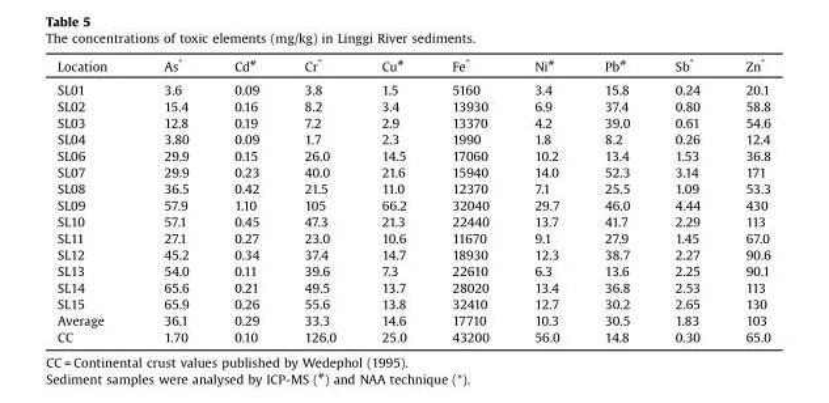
<table><thead><tr><td>Location</td><td>As*</td><td>Cd<sup>#</sup></td><td>Cr*</td><td>Cu<sup>#</sup></td><td>Fe*</td><td>Ni<sup>#</sup></td><td>Pb<sup>#</sup></td><td>Sb*</td><td>Zn*</td></tr></thead><tbody><tr><td>SL01</td><td>3.6</td><td>0.09</td><td>3.8</td><td>1.5</td><td>5160</td><td>3.4</td><td>15.8</td><td>0.24</td><td>20.1</td></tr><tr><td>SL02</td><td>15.4</td><td>0.16</td><td>8.2</td><td>3.4</td><td>13930</td><td>6.9</td><td>37.4</td><td>0.80</td><td>58.8</td></tr><tr><td>SL03</td><td>12.8</td><td>0.19</td><td>7.2</td><td>2.9</td><td>13370</td><td>4.2</td><td>39.0</td><td>0.61</td><td>54.6</td></tr><tr><td>SL04</td><td>3.80</td><td>0.09</td><td>1.7</td><td>2.3</td><td>1990</td><td>1.8</td><td>8.2</td><td>0.26</td><td>12.4</td></tr><tr><td>SL06</td><td>29.9</td><td>0.15</td><td>26.0</td><td>14.5</td><td>17060</td><td>10.2</td><td>13.4</td><td>1.53</td><td>36.8</td></tr><tr><td>SL07</td><td>29.9</td><td>0.23</td><td>40.0</td><td>21.6</td><td>15940</td><td>14.0</td><td>52.3</td><td>3.14</td><td>171</td></tr><tr><td>SL08</td><td>36.5</td><td>0.42</td><td>21.5</td><td>11.0</td><td>12370</td><td>7.1</td><td>25.5</td><td>1.09</td><td>53.3</td></tr><tr><td>SL09</td><td>57.9</td><td>1.10</td><td>105</td><td>66.2</td><td>32040</td><td>29.7</td><td>46.0</td><td>4.44</td><td>430</td></tr><tr><td>SL10</td><td>57.1</td><td>0.45</td><td>47.3</td><td>21.3</td><td>22440</td><td>13.7</td><td>41.7</td><td>2.29</td><td>113</td></tr><tr><td>SL11</td><td>27.1</td><td>0.27</td><td>23.0</td><td>10.6</td><td>11670</td><td>9.1</td><td>27.9</td><td>1.45</td><td>67.0</td></tr><tr><td>SL12</td><td>45.2</td><td>0.34</td><td>37.4</td><td>14.7</td><td>18930</td><td>12.3</td><td>38.7</td><td>2.27</td><td>90.6</td></tr><tr><td>SL13</td><td>54.0</td><td>0.11</td><td>39.6</td><td>7.3</td><td>22610</td><td>6.3</td><td>13.6</td><td>2.25</td><td>90.1</td></tr><tr><td>SL14</td><td>65.6</td><td>0.21</td><td>49.5</td><td>13.7</td><td>28020</td><td>13.4</td><td>36.8</td><td>2.53</td><td>113</td></tr><tr><td>SL15</td><td>65.9</td><td>0.26</td><td>55.6</td><td>13.8</td><td>32410</td><td>12.7</td><td>30.2</td><td>2.65</td><td>130</td></tr><tr><td>Average</td><td>36.1</td><td>0.29</td><td>33.3</td><td>14.6</td><td>17710</td><td>10.3</td><td>30.5</td><td>1.83</td><td>103</td></tr><tr><td>CC</td><td>1.70</td><td>0.10</td><td>126.0</td><td>25.0</td><td>43200</td><td>56.0</td><td>14.8</td><td>0.30</td><td>65.0</td></tr></tbody></table>